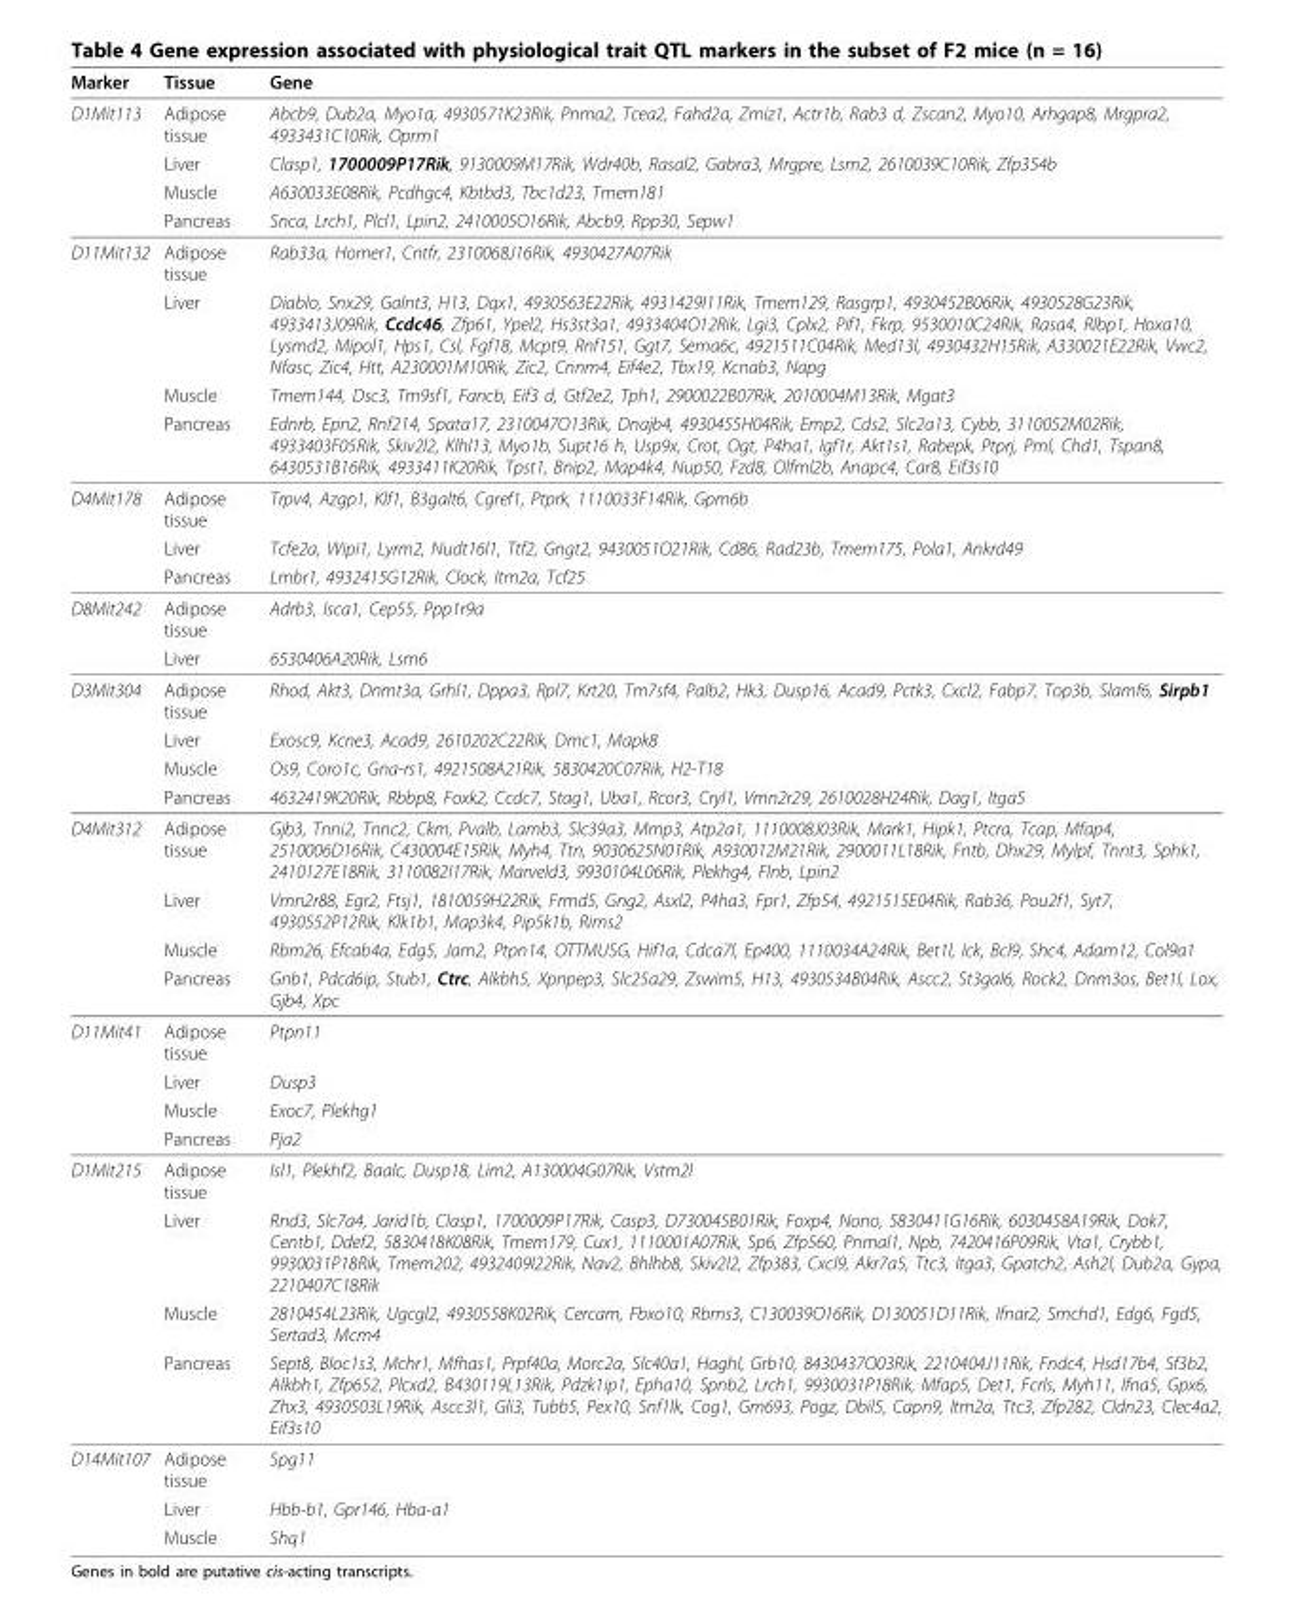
<table><thead><tr><td>Marker</td><td>Tissue</td><td>Gene</td></tr></thead><tbody><tr><td rowspan="4">D1Mit113</td><td>Adipose tissue</td><td>Abcb9, Dub2a, Myo1a, 4930571K23Rik, Pnma2, Tcea2, Fahd2a, Zmiz1, Actr1b, Rab3 d, Zscan2, Myo10, Arhgap8, Mrgpra2, 4933431C10Rik, Oprm1</td></tr><tr><td>Liver</td><td>Clasp1, 1700009P17Rik, 9130009M17Rik, Wdr40b, Rasal2, Gabra3, Mrgpre, Lsm2, 2610039C10Rik, Zfp354b</td></tr><tr><td>Muscle</td><td>A630033E08Rik, Pcdhgc4, Kbtbd3, Tbc1d23, Tmem181</td></tr><tr><td>Pancreas</td><td>Snca, Lrch1, Plcl1, Lpin2, 2410005O16Rik, Abcb9, Rpp30, Sepw1</td></tr><tr><td rowspan="4">D11Mit132</td><td>Adipose tissue</td><td>Rab33a, Homer1, Cntfr, 2310068J16Rik, 4930427A07Rik</td></tr><tr><td>Liver</td><td>Diablo, Snx29, Galnt3, H13, Dqx1, 4930563E22Rik, 4931429I11Rik, Tmem129, Rasgrp1, 4930452B06Rik, 4930528G23Rik, 4933413J09Rik, Ccdc46, Zfp61, Ypel2, Hs3st3a1, 4933404O12Rik, Lgi3, Cplx2, Pif1, Fkrp, 9530010C24Rik, Rasa4, Rlbp1, Hoxa10, Lysmd2, Mipol1, Hps1, Csl, Fgf18, Mcpt9, Rnf151, Ggt7, Sema6c, 4921511C04Rik, Med13l, 4930432H15Rik, A330021E22Rik, Vwc2, Nfasc, Zic4, Htt, A230001M10Rik, Zic2, Cnnm4, Eif4e2, Tbx19, Kcnab3, Napg</td></tr><tr><td>Muscle</td><td>Tmem144, Dsc3, Tm9sf1, Fancb, Eif3 d, Gtf2e2, Tph1, 2900022B07Rik, 2010004M13Rik, Mgat3</td></tr><tr><td>Pancreas</td><td>Ednrb, Epn2, Rnf214, Spata17, 2310047O13Rik, Dnajb4, 4930455H04Rik, Emp2, Cds2, Slc2a13, Cybb, 3110052M02Rik, 4933403F05Rik, Skiv2l2, Klhl13, Myo1b, Supt16 h, Usp9x, Crot, Ogt, P4ha1, Igf1r, Akt1s1, Rabepk, Ptprj, Pml, Chd1, Tspan8, 6430531B16Rik, 4933411K20Rik, Tpst1, Bnip2, Map4k4, Nup50, Fzd8, Olfml2b, Anapc4, Car8, Eif3s10</td></tr><tr><td rowspan="3">D4Mit178</td><td>Adipose tissue</td><td>Trpv4, Azgp1, Klf1, B3galt6, Cgref1, Ptprk, 1110033F14Rik, Gpm6b</td></tr><tr><td>Liver</td><td>Tcfe2a, Wipi1, Lyrm2, Nudt16l1, Ttf2, Gngt2, 9430051O21Rik, Cd86, Rad23b, Tmem175, Pola1, Ankrd49</td></tr><tr><td>Pancreas</td><td>Lmbr1, 4932415G12Rik, Clock, Itm2a, Tcf25</td></tr><tr><td rowspan="2">D8Mit242</td><td>Adipose tissue</td><td>Adrb3, Isca1, Cep55, Ppp1r9a</td></tr><tr><td>Liver</td><td>6530406A20Rik, Lsm6</td></tr><tr><td rowspan="4">D3Mit304</td><td>Adipose tissue</td><td>Rhod, Akt3, Dnmt3a, Grhl1, Dppa3, Rpl7, Krt20, Tm7sf4, Palb2, Hk3, Dusp16, Acad9, Pctk3, Cxcl2, Fabp7, Top3b, Slamf6, Sirpb1</td></tr><tr><td>Liver</td><td>Exosc9, Kcne3, Acad9, 2610202C22Rik, Dmc1, Mapk8</td></tr><tr><td>Muscle</td><td>Os9, Coro1c, Gna-rs1, 4921508A21Rik, 5830420C07Rik, H2-T18</td></tr><tr><td>Pancreas</td><td>4632419K20Rik, Rbbp8, Foxk2, Ccdc7, Stag1, Uba1, Rcor3, Cryl1, Vmn2r29, 2610028H24Rik, Dag1, Itga5</td></tr><tr><td rowspan="4">D4Mit312</td><td>Adipose tissue</td><td>Gjb3, Tnni2, Tnnc2, Ckm, Pvalb, Lamb3, Slc39a3, Mmp3, Atp2a1, 1110008J03Rik, Mark1, Hipk1, Ptcra, Tcap, Mfap4, 2510006D16Rik, C430004E15Rik, Myh4, Ttn, 9030625N01Rik, A930012M21Rik, 2900011L18Rik, Fntb, Dhx29, Mylpf, Tnnt3, Sphk1, 2410127E18Rik, 3110082I17Rik, Marveld3, 9930104L06Rik, Plekhg4, Flnb, Lpin2</td></tr><tr><td>Liver</td><td>Vmn2r88, Egr2, Ftsj1, 1810059H22Rik, Frmd5, Gng2, Asxl2, P4ha3, Fpr1, Zfp54, 4921515E04Rik, Rab36, Pou2f1, Syt7, 4930552P12Rik, Klk1b1, Map3k4, Pip5k1b, Rims2</td></tr><tr><td>Muscle</td><td>Rbm26, Efcab4a, Edg5, Jam2, Ptpn14, OTTMUSG, Hif1a, Cdca7l, Ep400, 1110034A24Rik, Bet1l, Ick, Bcl9, Shc4, Adam12, Col9a1</td></tr><tr><td>Pancreas</td><td>Gnb1, Pdcd6ip, Stub1, Ctrc, Alkbh5, Xpnpep3, Slc25a29, Zswim5, H13, 4930534B04Rik, Ascc2, St3gal6, Rock2, Dnm3os, Bet1l, Lox, Gjb4, Xpc</td></tr><tr><td rowspan="4">D11Mit41</td><td>Adipose tissue</td><td>Ptpn11</td></tr><tr><td>Liver</td><td>Dusp3</td></tr><tr><td>Muscle</td><td>Exoc7, Plekhg1</td></tr><tr><td>Pancreas</td><td>Pja2</td></tr><tr><td rowspan="4">D1Mit215</td><td>Adipose tissue</td><td>Isl1, Plekhf2, Baalc, Dusp18, Lim2, A130004G07Rik, Vstm2l</td></tr><tr><td>Liver</td><td>Rnd3, Slc7a4, Jarid1b, Clasp1, 1700009P17Rik, Casp3, D730045B01Rik, Foxp4, Nono, 5830411G16Rik, 6030458A19Rik, Dok7, Centb1, Ddef2, 5830418K08Rik, Tmem179, Cux1, 1110001A07Rik, Sp6, Zfp560, Pnmal1, Npb, 7420416P09Rik, Vta1, Crybb1, 9930031P18Rik, Tmem202, 4932409I22Rik, Nav2, Bhlhb8, Skiv2l2, Zfp383, Cxcl9, Akr7a5, Ttc3, Itga3, Gpatch2, Ash2l, Dub2a, Gypa, 2210407C18Rik</td></tr><tr><td>Muscle</td><td>2810454L23Rik, Ugcgl2, 4930558K02Rik, Cercam, Fbxo10, Rbms3, C130039O16Rik, D130051D11Rik, Ifnar2, Smchd1, Edg6, Fgd5, Sertad3, Mcm4</td></tr><tr><td>Pancreas</td><td>Sept8, Bloc1s3, Mchr1, Mfhas1, Prpf40a, Morc2a, Slc40a1, Haghl, Grb10, 8430437O03Rik, 2210404J11Rik, Fndc4, Hsd17b4, Sf3b2, Alkbh1, Zfp652, Plcxd2, B430119L13Rik, Pdzk1ip1, Epha10, Spnb2, Lrch1, 9930031P18Rik, Mfap5, Det1, Fcrls, Myh11, Ifna5, Gpx6, Zhx3, 4930503L19Rik, Ascc3l1, Gli3, Tubb5, Pex10, Snf1lk, Cog1, Gm693, Pogz, Dbil5, Capn9, Itm2a, Ttc3, Zfp282, Cldn23, Clec4a2, Eif3s10</td></tr><tr><td rowspan="3">D14Mit107</td><td>Adipose tissue</td><td>Spg11</td></tr><tr><td>Liver</td><td>Hbb-b1, Gpr146, Hba-a1</td></tr><tr><td>Muscle</td><td>Shq1</td></tr></tbody></table>